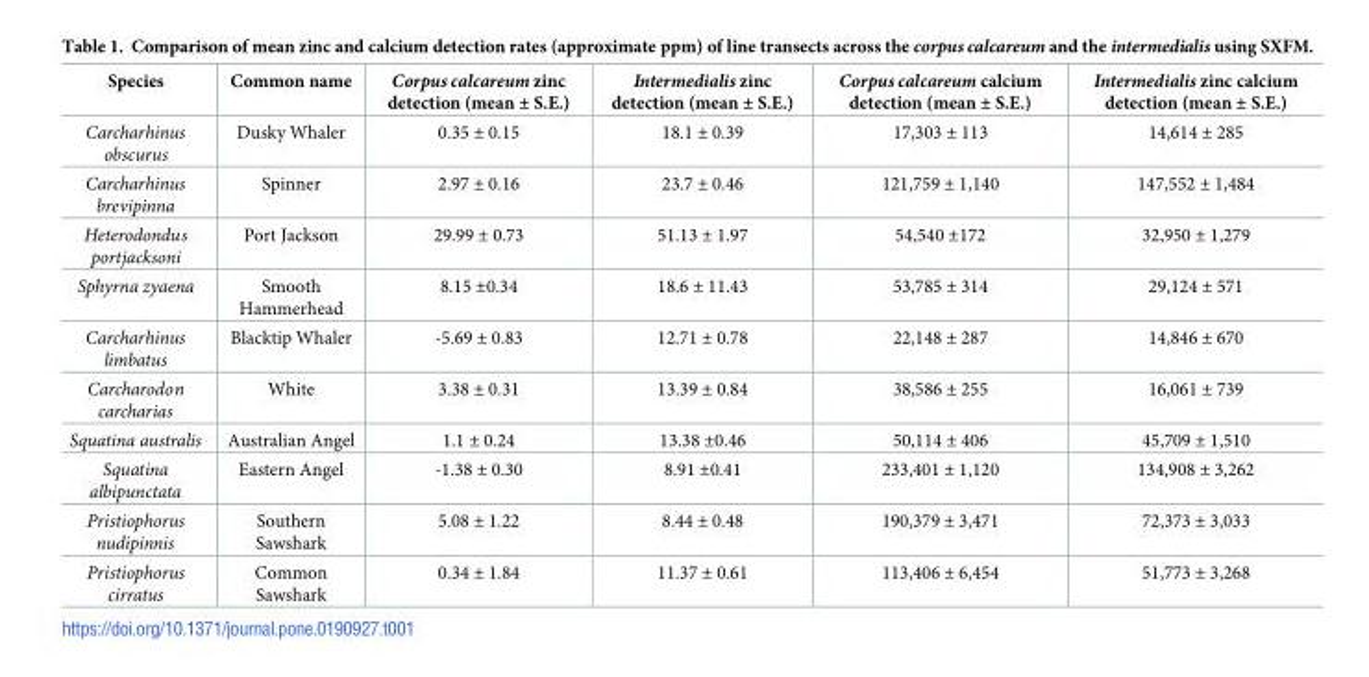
<table><thead><tr><td>Species</td><td>Common name</td><td>Corpus calcareum zinc detection (mean ± S.E.)</td><td>Intermedialis zinc detection (mean ± S.E.)</td><td>Corpus calcareum calcium detection (mean ± S.E.)</td><td>Intermedialis zinc calcium detection (mean ± S.E.)</td></tr></thead><tbody><tr><td>Carcharhinus obscurus</td><td>Dusky Whaler</td><td>0.35 ± 0.15</td><td>18.1 ± 0.39</td><td>17,303 ± 113</td><td>14,614 ± 285</td></tr><tr><td>Carcharhinus brevipinna</td><td>Spinner</td><td>2.97 ± 0.16</td><td>23.7 ± 0.46</td><td>121,759 ± 1,140</td><td>147,552 ± 1,484</td></tr><tr><td>Heterodondus portjacksoni</td><td>Port Jackson</td><td>29.99 ± 0.73</td><td>51.13 ± 1.97</td><td>54,540 ±172</td><td>32,950 ± 1,279</td></tr><tr><td>Sphyrna zyaena</td><td>Smooth Hammerhead</td><td>8.15 ±0.34</td><td>18.6 ± 11.43</td><td>53,785 ± 314</td><td>29,124 ± 571</td></tr><tr><td>Carcharhinus limbatus</td><td>Blacktip Whaler</td><td>-5.69 ± 0.83</td><td>12.71 ± 0.78</td><td>22,148 ± 287</td><td>14,846 ± 670</td></tr><tr><td>Carcharodon carcharias</td><td>White</td><td>3.38 ± 0.31</td><td>13.39 ± 0.84</td><td>38,586 ± 255</td><td>16,061 ± 739</td></tr><tr><td>Squatina australis</td><td>Australian Angel</td><td>1.1 ± 0.24</td><td>13.38 ±0.46</td><td>50,114 ± 406</td><td>45,709 ± 1,510</td></tr><tr><td>Squatina albipunctata</td><td>Eastern Angel</td><td>-1.38 ± 0.30</td><td>8.91 ±0.41</td><td>233,401 ± 1,120</td><td>134,908 ± 3,262</td></tr><tr><td>Pristiophorus nudipinnis</td><td>Southern Sawshark</td><td>5.08 ± 1.22</td><td>8.44 ± 0.48</td><td>190,379 ± 3,471</td><td>72,373 ± 3,033</td></tr><tr><td>Pristiophorus cirratus</td><td>Common Sawshark</td><td>0.34 ± 1.84</td><td>11.37 ± 0.61</td><td>113,406 ± 6,454</td><td>51,773 ± 3,268</td></tr></tbody></table>